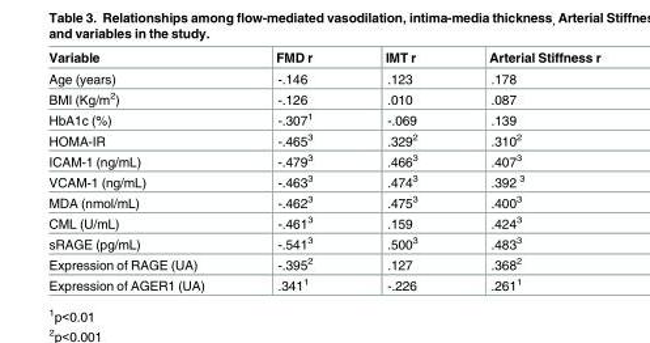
<table><thead><tr><td>Variable</td><td>FMD r</td><td>IMT r</td><td>Arterial Stiffness r</td></tr></thead><tbody><tr><td>Age (years)</td><td>-.146</td><td>.123</td><td>.178</td></tr><tr><td>BMI (Kg/m<sup>2</sup>)</td><td>-.126</td><td>.010</td><td>.087</td></tr><tr><td>HbA1c (%)</td><td>-.307<sup>1</sup></td><td>-.069</td><td>.139</td></tr><tr><td>HOMA-IR</td><td>-.465<sup>3</sup></td><td>.329<sup>2</sup></td><td>.310<sup>2</sup></td></tr><tr><td>ICAM-1 (ng/mL)</td><td>-.479<sup>3</sup></td><td>.466<sup>3</sup></td><td>.407<sup>3</sup></td></tr><tr><td>VCAM-1 (ng/mL)</td><td>-.463<sup>3</sup></td><td>.474<sup>3</sup></td><td>.392 <sup>3</sup></td></tr><tr><td>MDA (nmol/mL)</td><td>-.462<sup>3</sup></td><td>.475<sup>3</sup></td><td>.400<sup>3</sup></td></tr><tr><td>CML (U/mL)</td><td>-.461<sup>3</sup></td><td>.159</td><td>.424<sup>3</sup></td></tr><tr><td>sRAGE (pg/mL)</td><td>-.541<sup>3</sup></td><td>.500<sup>3</sup></td><td>.483<sup>3</sup></td></tr><tr><td>Expression of RAGE (UA)</td><td>-.395<sup>2</sup></td><td>.127</td><td>.368<sup>2</sup></td></tr><tr><td>Expression of AGER1 (UA)</td><td>.341<sup>1</sup></td><td>-.226</td><td>.261<sup>1</sup></td></tr></tbody></table>